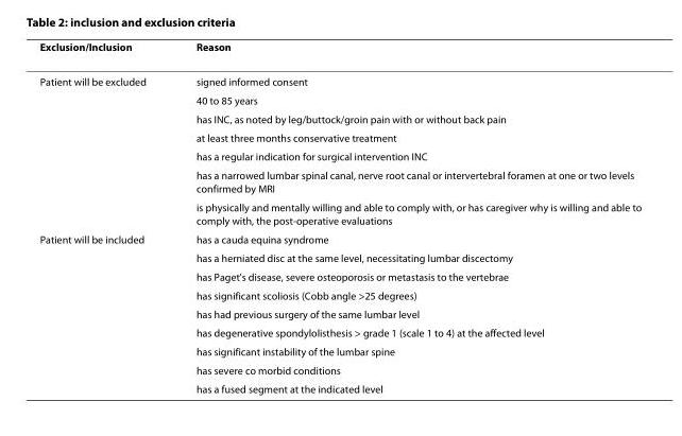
<table><thead><tr><td>Exclusion/Inclusion</td><td>Reason</td></tr></thead><tbody><tr><td rowspan="7">Patient will be excluded</td><td>signed informed consent</td></tr><tr><td>40 to 85 years</td></tr><tr><td>has INC, as noted by leg/buttock/groin pain with or without back pain</td></tr><tr><td>at least three months conservative treatment</td></tr><tr><td>has a regular indication for surgical intervention INC</td></tr><tr><td>has a narrowed lumbar spinal canal, nerve root canal or intervertebral foramen at one or two levels confirmed by MRI</td></tr><tr><td>is physically and mentally willing and able to comply with, or has caregiver why is willing and able to comply with, the post-operative evaluations</td></tr><tr><td rowspan="9">Patient will be included</td><td>has a cauda equina syndrome</td></tr><tr><td>has a herniated disc at the same level, necessitating lumbar discectomy</td></tr><tr><td>has Paget&#x27;s disease, severe osteoporosis or metastasis to the vertebrae</td></tr><tr><td>has significant scoliosis (Cobb angle &gt;25 degrees)</td></tr><tr><td>has had previous surgery of the same lumbar level</td></tr><tr><td>has degenerative spondylolisthesis &gt; grade 1 (scale 1 to 4) at the affected level</td></tr><tr><td>has significant instability of the lumbar spine</td></tr><tr><td>has severe co morbid conditions</td></tr><tr><td>has a fused segment at the indicated level</td></tr></tbody></table>